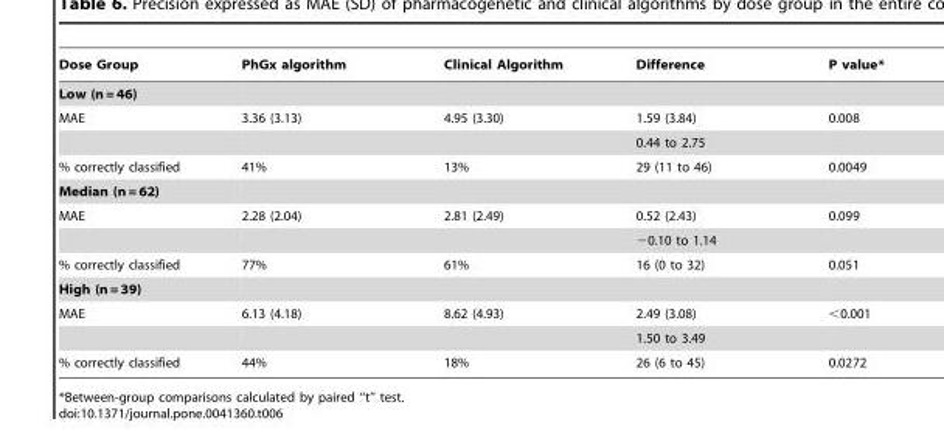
<table><thead><tr><td>Dose Group</td><td>PhGx algorithm</td><td>Clinical Algorithm</td><td>Difference</td><td>P value*</td></tr></thead><tbody><tr><td colspan="5">Low (n = 46)</td></tr><tr><td rowspan="2">MAE</td><td>3.36 (3.13)</td><td>4.95 (3.30)</td><td>1.59 (3.84)</td><td>0.008</td></tr><tr><td></td><td></td><td>0.44 to 2.75</td><td></td></tr><tr><td>% correctly classified</td><td>41%</td><td>13%</td><td>29 (11 to 46)</td><td>0.0049</td></tr><tr><td colspan="5">Median (n = 62)</td></tr><tr><td rowspan="2">MAE</td><td>2.28 (2.04)</td><td>2.81 (2.49)</td><td>0.52 (2.43)</td><td>0.099</td></tr><tr><td></td><td></td><td>−0.10 to 1.14</td><td></td></tr><tr><td>% correctly classified</td><td>77%</td><td>61%</td><td>16 (0 to 32)</td><td>0.051</td></tr><tr><td colspan="5">High (n = 39)</td></tr><tr><td rowspan="2">MAE</td><td>6.13 (4.18)</td><td>8.62 (4.93)</td><td>2.49 (3.08)</td><td>&lt;0.001</td></tr><tr><td></td><td></td><td>1.50 to 3.49</td><td></td></tr><tr><td>% correctly classified</td><td>44%</td><td>18%</td><td>26 (6 to 45)</td><td>0.0272</td></tr></tbody></table>